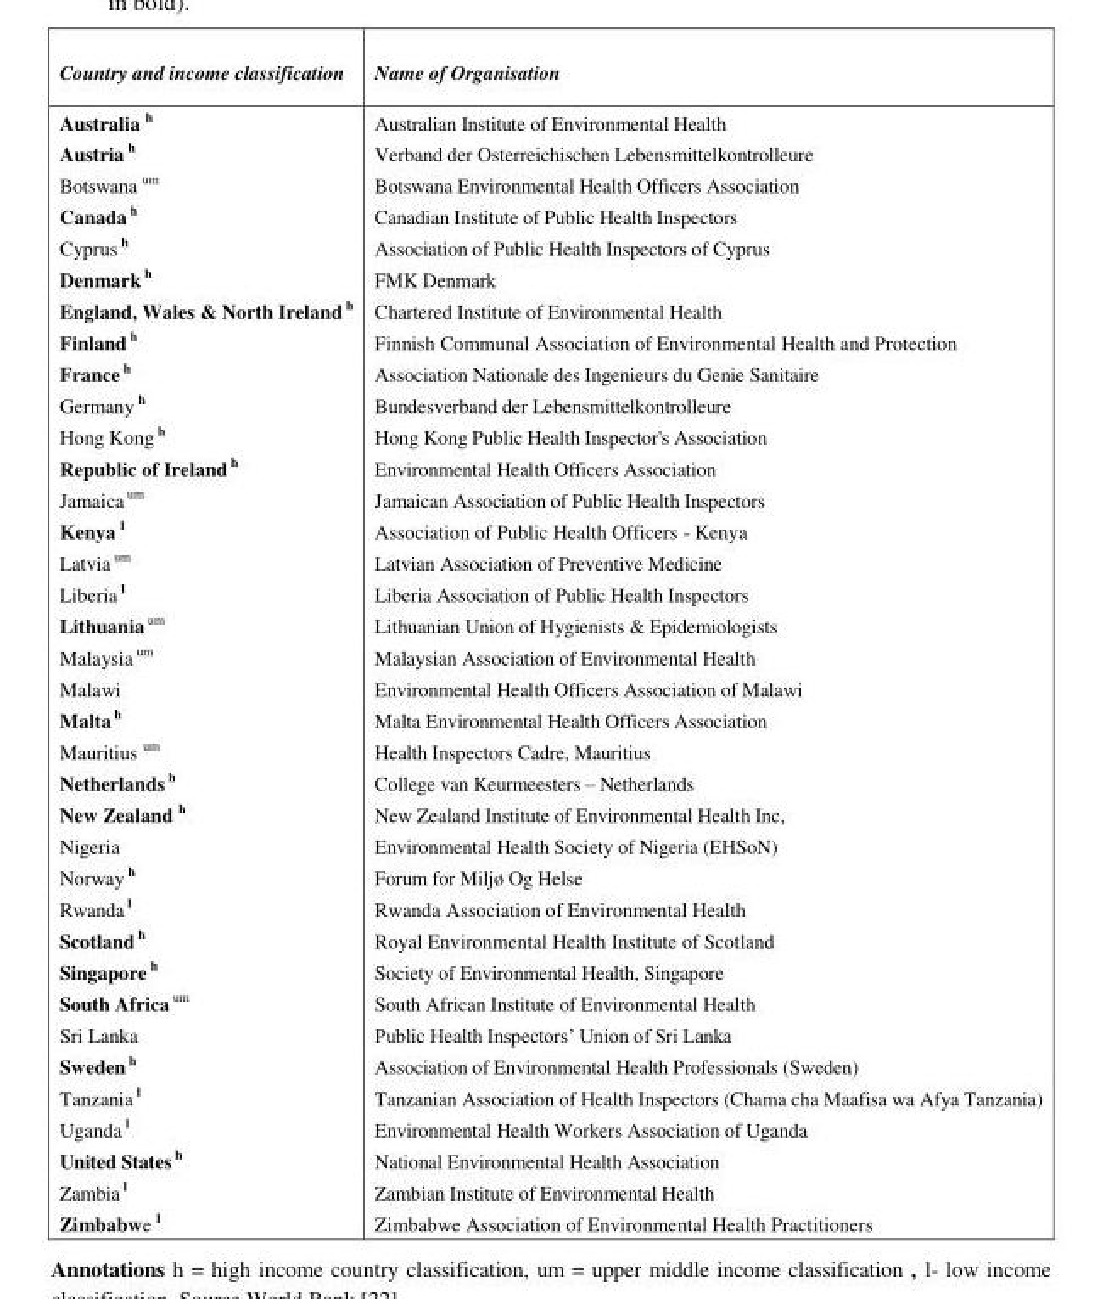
<table><thead><tr><td>Country and income classification</td><td>Name of Organisation</td></tr></thead><tbody><tr><td>Australia <sup>h</sup></td><td>Australian Institute of Environmental Health</td></tr><tr><td>Austria <sup>h</sup></td><td>Verband der Osterreichischen Lebensmittelkontrolleure</td></tr><tr><td>Botswana <sup>um</sup></td><td>Botswana Environmental Health Officers Association</td></tr><tr><td>Canada <sup>h</sup></td><td>Canadian Institute of Public Health Inspectors</td></tr><tr><td>Cyprus <sup>h</sup></td><td>Association of Public Health Inspectors of Cyprus</td></tr><tr><td>Denmark <sup>h</sup></td><td>FMK Denmark</td></tr><tr><td>England, Wales &amp; North Ireland <sup>h</sup></td><td>Chartered Institute of Environmental Health</td></tr><tr><td>Finland <sup>h</sup></td><td>Finnish Communal Association of Environmental Health and Protection</td></tr><tr><td>France <sup>h</sup></td><td>Association Nationale des Ingenieurs du Genie Sanitaire</td></tr><tr><td>Germany <sup>h</sup></td><td>Bundesverband der Lebensmittelkontrolleure</td></tr><tr><td>Hong Kong <sup>h</sup></td><td>Hong Kong Public Health Inspector&#x27;s Association</td></tr><tr><td>Republic of Ireland <sup>h</sup></td><td>Environmental Health Officers Association</td></tr><tr><td>Jamaica <sup>um</sup></td><td>Jamaican Association of Public Health Inspectors</td></tr><tr><td>Kenya <sup>l</sup></td><td>Association of Public Health Officers - Kenya</td></tr><tr><td>Latvia <sup>um</sup></td><td>Latvian Association of Preventive Medicine</td></tr><tr><td>Liberia <sup>l</sup></td><td>Liberia Association of Public Health Inspectors</td></tr><tr><td>Lithuania <sup>um</sup></td><td>Lithuanian Union of Hygienists &amp; Epidemiologists</td></tr><tr><td>Malaysia <sup>um</sup></td><td>Malaysian Association of Environmental Health</td></tr><tr><td>Malawi</td><td>Environmental Health Officers Association of Malawi</td></tr><tr><td>Malta <sup>h</sup></td><td>Malta Environmental Health Officers Association</td></tr><tr><td>Mauritius <sup>um</sup></td><td>Health Inspectors Cadre, Mauritius</td></tr><tr><td>Netherlands <sup>h</sup></td><td>College van Keurmeesters – Netherlands</td></tr><tr><td>New Zealand <sup>h</sup></td><td>New Zealand Institute of Environmental Health Inc,</td></tr><tr><td>Nigeria</td><td>Environmental Health Society of Nigeria (EHSoN)</td></tr><tr><td>Norway <sup>h</sup></td><td>Forum for Miljø Og Helse</td></tr><tr><td>Rwanda <sup>l</sup></td><td>Rwanda Association of Environmental Health</td></tr><tr><td>Scotland <sup>h</sup></td><td>Royal Environmental Health Institute of Scotland</td></tr><tr><td>Singapore <sup>h</sup></td><td>Society of Environmental Health, Singapore</td></tr><tr><td>South Africa <sup>um</sup></td><td>South African Institute of Environmental Health</td></tr><tr><td>Sri Lanka</td><td>Public Health Inspectors‟ Union of Sri Lanka</td></tr><tr><td>Sweden <sup>h</sup></td><td>Association of Environmental Health Professionals (Sweden)</td></tr><tr><td>Tanzania <sup>l</sup></td><td>Tanzanian Association of Health Inspectors (Chama cha Maafisa wa Afya Tanzania)</td></tr><tr><td>Uganda <sup>l</sup></td><td>Environmental Health Workers Association of Uganda</td></tr><tr><td>United States <sup>h</sup></td><td>National Environmental Health Association</td></tr><tr><td>Zambia <sup>l</sup></td><td>Zambian Institute of Environmental Health</td></tr><tr><td>Zimbabwe <sup>l</sup></td><td>Zimbabwe Association of Environmental Health Practitioners</td></tr></tbody></table>